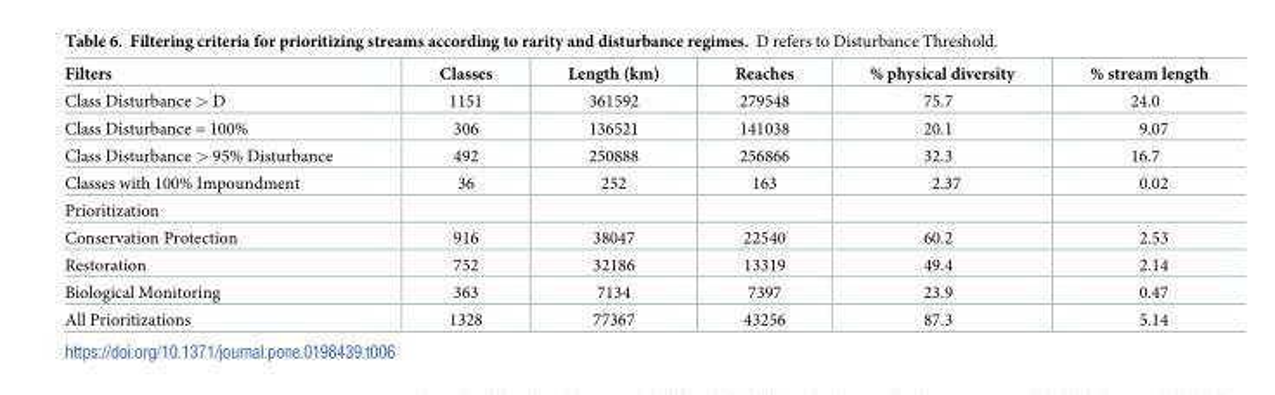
<table><thead><tr><td>Filters</td><td>Classes</td><td>Length (km)</td><td>Reaches</td><td>% physical diversity</td><td>% stream length</td></tr></thead><tbody><tr><td>Class Disturbance &gt; D</td><td>1151</td><td>361592</td><td>279548</td><td>75.7</td><td>24.0</td></tr><tr><td>Class Disturbance = 100%</td><td>306</td><td>136521</td><td>141038</td><td>20.1</td><td>9.07</td></tr><tr><td>Class Disturbance &gt; 95% Disturbance</td><td>492</td><td>250888</td><td>256866</td><td>32.3</td><td>16.7</td></tr><tr><td>Classes with 100% Impoundment</td><td>36</td><td>252</td><td>163</td><td>2.37</td><td>0.02</td></tr><tr><td colspan="6">Prioritization</td></tr><tr><td>Conservation Protection</td><td>916</td><td>38047</td><td>22540</td><td>60.2</td><td>2.53</td></tr><tr><td>Restoration</td><td>752</td><td>32186</td><td>13319</td><td>49.4</td><td>2.14</td></tr><tr><td>Biological Monitoring</td><td>363</td><td>7134</td><td>7397</td><td>23.9</td><td>0.47</td></tr><tr><td>All Prioritizations</td><td>1328</td><td>77367</td><td>43256</td><td>87.3</td><td>5.14</td></tr></tbody></table>